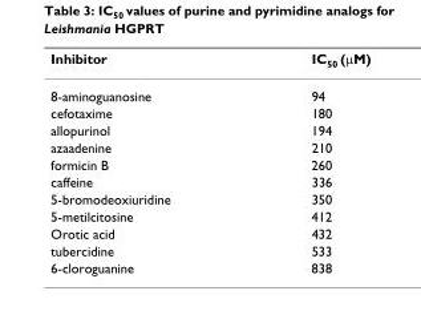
<table><thead><tr><td>Inhibitor</td><td>IC<sub>50</sub> (μM)</td></tr></thead><tbody><tr><td>8-aminoguanosine</td><td>94</td></tr><tr><td>cefotaxime</td><td>180</td></tr><tr><td>allopurinol</td><td>194</td></tr><tr><td>azaadenine</td><td>210</td></tr><tr><td>formicin B</td><td>260</td></tr><tr><td>caffeine</td><td>336</td></tr><tr><td>5-bromodeoxiuridine</td><td>350</td></tr><tr><td>5-metilcitosine</td><td>412</td></tr><tr><td>Orotic acid</td><td>432</td></tr><tr><td>tubercidine</td><td>533</td></tr><tr><td>6-cloroguanine</td><td>838</td></tr></tbody></table>